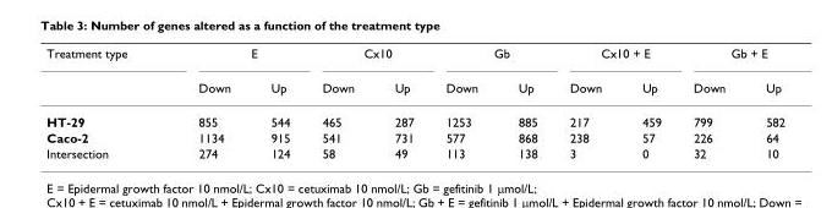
<table><thead><tr><td rowspan="2">Treatment type</td><td colspan="2">E</td><td colspan="2">Cx10</td><td colspan="2">Gb</td><td colspan="2">Cx10 + E</td><td colspan="2">Gb + E</td></tr><tr><td>Down</td><td>Up</td><td>Down</td><td>Up</td><td>Down</td><td>Up</td><td>Down</td><td>Up</td><td>Down</td><td>Up</td></tr></thead><tbody><tr><td>HT-29</td><td>855</td><td>544</td><td>465</td><td>287</td><td>1253</td><td>885</td><td>217</td><td>459</td><td>799</td><td>582</td></tr><tr><td>Caco-2</td><td>1134</td><td>915</td><td>541</td><td>731</td><td>577</td><td>868</td><td>238</td><td>57</td><td>226</td><td>64</td></tr><tr><td>Intersection</td><td>274</td><td>124</td><td>58</td><td>49</td><td>113</td><td>138</td><td>3</td><td>0</td><td>32</td><td>10</td></tr></tbody></table>